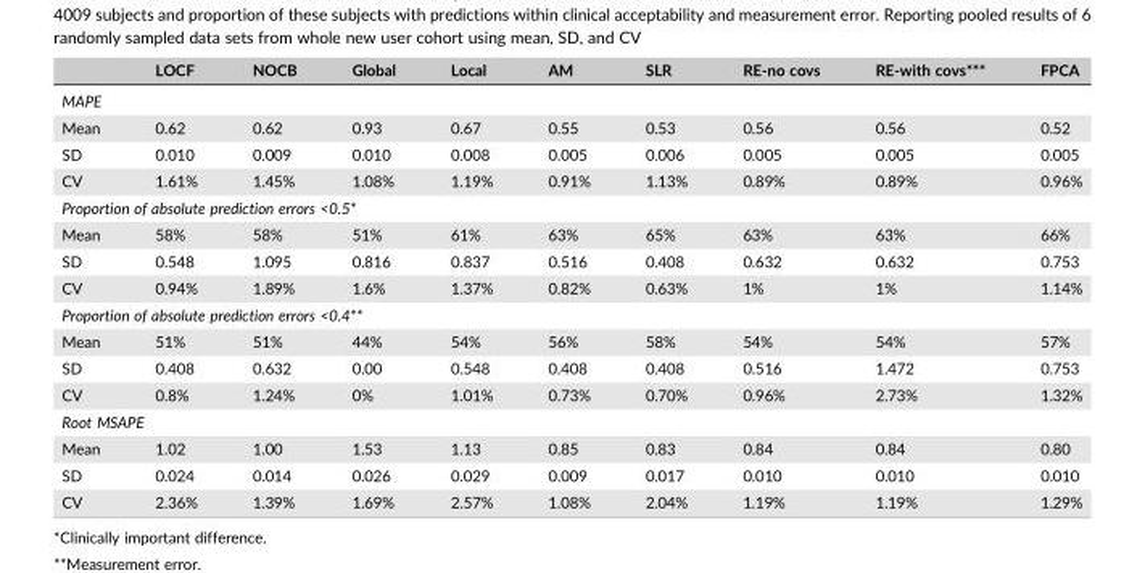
<table><thead><tr><td></td><td>LOCF</td><td>NOCB</td><td>Global</td><td>Local</td><td>AM</td><td>SLR</td><td>RE‐no covs</td><td>RE‐with covs***</td><td>FPCA</td></tr></thead><tbody><tr><td colspan="10">MAPE</td></tr><tr><td>Mean</td><td>0.62</td><td>0.62</td><td>0.93</td><td>0.67</td><td>0.55</td><td>0.53</td><td>0.56</td><td>0.56</td><td>0.52</td></tr><tr><td>SD</td><td>0.010</td><td>0.009</td><td>0.010</td><td>0.008</td><td>0.005</td><td>0.006</td><td>0.005</td><td>0.005</td><td>0.005</td></tr><tr><td>CV</td><td>1.61%</td><td>1.45%</td><td>1.08%</td><td>1.19%</td><td>0.91%</td><td>1.13%</td><td>0.89%</td><td>0.89%</td><td>0.96%</td></tr><tr><td colspan="10">Proportion of absolute prediction errors &lt;0.5*</td></tr><tr><td>Mean</td><td>58%</td><td>58%</td><td>51%</td><td>61%</td><td>63%</td><td>65%</td><td>63%</td><td>63%</td><td>66%</td></tr><tr><td>SD</td><td>0.548</td><td>1.095</td><td>0.816</td><td>0.837</td><td>0.516</td><td>0.408</td><td>0.632</td><td>0.632</td><td>0.753</td></tr><tr><td>CV</td><td>0.94%</td><td>1.89%</td><td>1.6%</td><td>1.37%</td><td>0.82%</td><td>0.63%</td><td>1%</td><td>1%</td><td>1.14%</td></tr><tr><td colspan="10">Proportion of absolute prediction errors &lt;0.4**</td></tr><tr><td>Mean</td><td>51%</td><td>51%</td><td>44%</td><td>54%</td><td>56%</td><td>58%</td><td>54%</td><td>54%</td><td>57%</td></tr><tr><td>SD</td><td>0.408</td><td>0.632</td><td>0.00</td><td>0.548</td><td>0.408</td><td>0.408</td><td>0.516</td><td>1.472</td><td>0.753</td></tr><tr><td>CV</td><td>0.8%</td><td>1.24%</td><td>0%</td><td>1.01%</td><td>0.73%</td><td>0.70%</td><td>0.96%</td><td>2.73%</td><td>1.32%</td></tr><tr><td colspan="10">Root MSAPE</td></tr><tr><td>Mean</td><td>1.02</td><td>1.00</td><td>1.53</td><td>1.13</td><td>0.85</td><td>0.83</td><td>0.84</td><td>0.84</td><td>0.80</td></tr><tr><td>SD</td><td>0.024</td><td>0.014</td><td>0.026</td><td>0.029</td><td>0.009</td><td>0.017</td><td>0.010</td><td>0.010</td><td>0.010</td></tr><tr><td>CV</td><td>2.36%</td><td>1.39%</td><td>1.69%</td><td>2.57%</td><td>1.08%</td><td>2.04%</td><td>1.19%</td><td>1.19%</td><td>1.29%</td></tr></tbody></table>